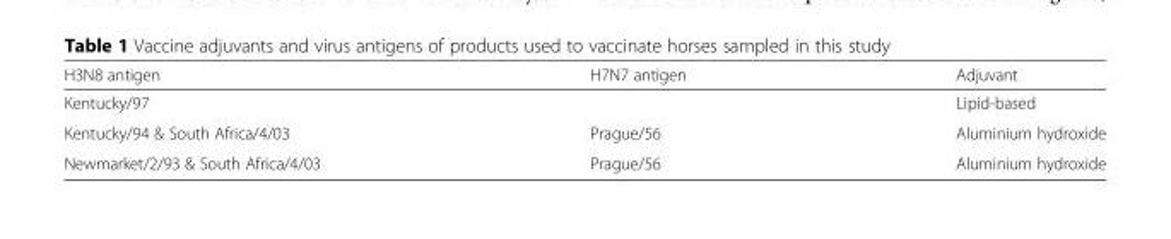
<table><thead><tr><td>H3N8 antigen</td><td>H7N7 antigen</td><td>Adjuvant</td></tr></thead><tbody><tr><td>Kentucky/97</td><td></td><td>Lipid-based</td></tr><tr><td>Kentucky/94 &amp; South Africa/4/03</td><td>Prague/56</td><td>Aluminium hydroxide</td></tr><tr><td>Newmarket/2/93 &amp; South Africa/4/03</td><td>Prague/56</td><td>Aluminium hydroxide</td></tr></tbody></table>